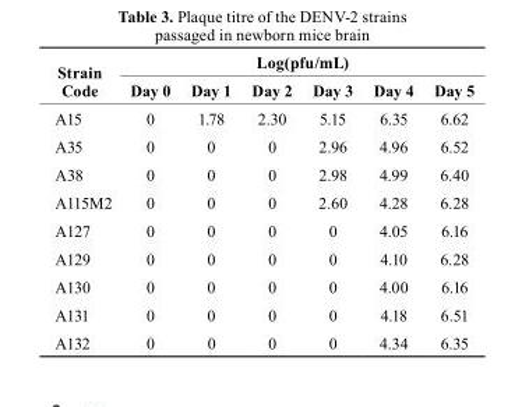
<table><thead><tr><td rowspan="2">strain code</td><td colspan="6">Log(pfu/mL)</td></tr><tr><td>Day 0</td><td>Day 1</td><td>Day 2</td><td>Day 3</td><td>Day 4</td><td>Day 5</td></tr></thead><tbody><tr><td>A15</td><td>0</td><td>1.78</td><td>2.30</td><td>5.15</td><td>6.35</td><td>6.62</td></tr><tr><td>A35</td><td>0</td><td>0</td><td>0</td><td>2.96</td><td>4.96</td><td>6.52</td></tr><tr><td>A38</td><td>0</td><td>0</td><td>0</td><td>2.98</td><td>4.99</td><td>6.40</td></tr><tr><td>A115M2</td><td>0</td><td>0</td><td>0</td><td>2.60</td><td>4.28</td><td>6.28</td></tr><tr><td>A127</td><td>0</td><td>0</td><td>0</td><td>0</td><td>4.05</td><td>6.16</td></tr><tr><td>A129</td><td>0</td><td>0</td><td>0</td><td>0</td><td>4.10</td><td>6.28</td></tr><tr><td>A130</td><td>0</td><td>0</td><td>0</td><td>0</td><td>4.00</td><td>6.16</td></tr><tr><td>A131</td><td>0</td><td>0</td><td>0</td><td>0</td><td>4.18</td><td>6.51</td></tr><tr><td>A132</td><td>0</td><td>0</td><td>0</td><td>0</td><td>4.34</td><td>6.35</td></tr></tbody></table>